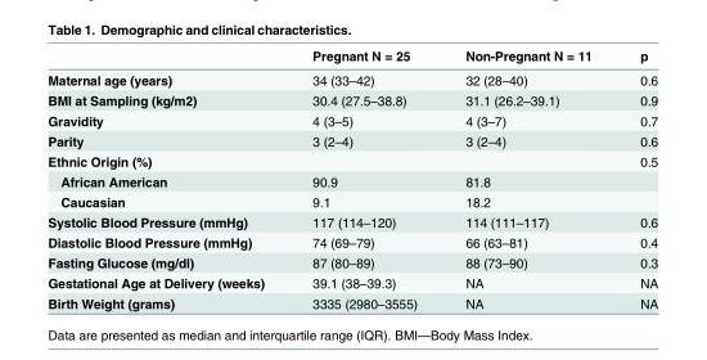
<table><thead><tr><td></td><td>Pregnant N = 25</td><td>Non-Pregnant N = 11</td><td>p</td></tr></thead><tbody><tr><td>Maternal age (years)</td><td>34 (33–42)</td><td>32 (28–40)</td><td>0.6</td></tr><tr><td>BMI at Sampling (kg/m2)</td><td>30.4 (27.5–38.8)</td><td>31.1 (26.2–39.1)</td><td>0.9</td></tr><tr><td>Gravidity</td><td>4 (3–5)</td><td>4 (3–7)</td><td>0.7</td></tr><tr><td>Parity</td><td>3 (2–4)</td><td>3 (2–4)</td><td>0.6</td></tr><tr><td>Ethnic Origin (%)</td><td></td><td></td><td>0.5</td></tr><tr><td>African American</td><td>90.9</td><td>81.8</td><td></td></tr><tr><td>Caucasian</td><td>9.1</td><td>18.2</td><td></td></tr><tr><td>Systolic Blood Pressure (mmHg)</td><td>117 (114–120)</td><td>114 (111–117)</td><td>0.6</td></tr><tr><td>Diastolic Blood Pressure (mmHg)</td><td>74 (69–79)</td><td>66 (63–81)</td><td>0.4</td></tr><tr><td>Fasting Glucose (mg/dl)</td><td>87 (80–89)</td><td>88 (73–90)</td><td>0.3</td></tr><tr><td>Gestational Age at Delivery (weeks)</td><td>39.1 (38–39.3)</td><td>NA</td><td>NA</td></tr><tr><td>Birth Weight (grams)</td><td>3335 (2980–3555)</td><td>NA</td><td>NA</td></tr></tbody></table>